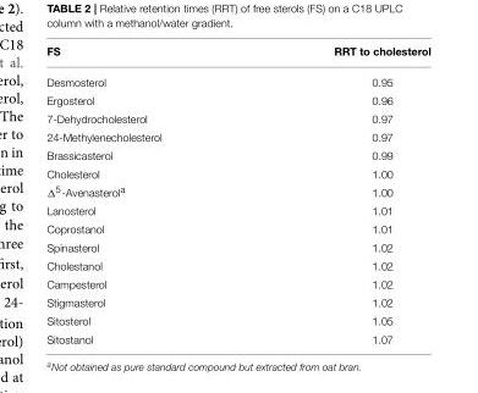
<table><thead><tr><td>FS</td><td>RRT to cholesterol</td></tr></thead><tbody><tr><td>Desmosterol</td><td>0.95</td></tr><tr><td>Ergosterol</td><td>0.96</td></tr><tr><td>7-Dehydrocholesterol</td><td>0.97</td></tr><tr><td>24-Methylenecholesterol</td><td>0.97</td></tr><tr><td>Brassicasterol</td><td>0.99</td></tr><tr><td>Cholesterol</td><td>1.00</td></tr><tr><td>Δ<sup>5</sup>-Avenasterol<sup>a</sup></td><td>1.00</td></tr><tr><td>Lanosterol</td><td>1.01</td></tr><tr><td>Coprostanol</td><td>1.01</td></tr><tr><td>Spinasterol</td><td>1.02</td></tr><tr><td>Cholestanol</td><td>1.02</td></tr><tr><td>Campesterol</td><td>1.02</td></tr><tr><td>Stigmasterol</td><td>1.02</td></tr><tr><td>Sitosterol</td><td>1.05</td></tr><tr><td>Sitostanol</td><td>1.07</td></tr></tbody></table>